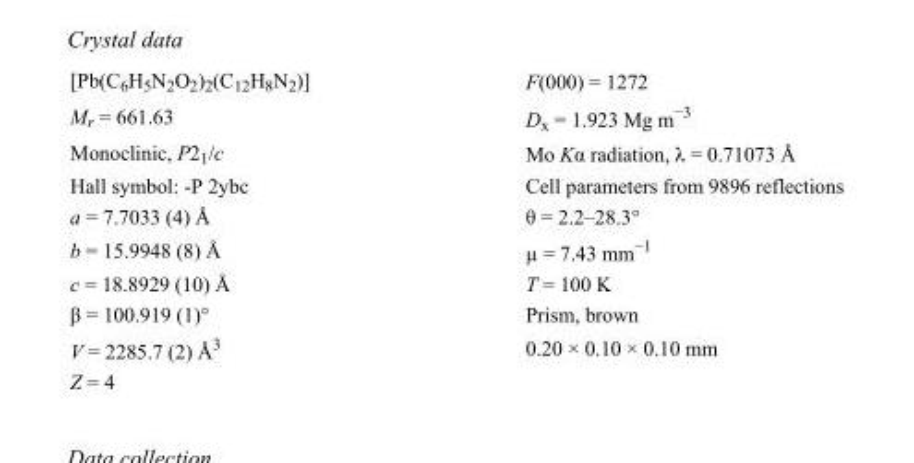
<table><tbody><tr><td>[Pb(C<sub>6</sub>H<sub>5</sub>N<sub>2</sub>O<sub>2</sub>)<sub>2</sub>(C<sub>12</sub>H<sub>8</sub>N<sub>2</sub>)]</td><td>F(000) = 1272</td></tr><tr><td>M<sub>r</sub> = 661.63</td><td>D<sub>x</sub> = 1.923 Mg m<sup>−3</sup></td></tr><tr><td>Monoclinic, P2<sub>1</sub>/c</td><td>Mo Kα radiation, λ = 0.71073 Å</td></tr><tr><td>Hall symbol: -P 2ybc</td><td>Cell parameters from 9896 reflections</td></tr><tr><td>a = 7.7033 (4) Å</td><td>θ = 2.2–28.3°</td></tr><tr><td>b = 15.9948 (8) Å</td><td>µ = 7.43 mm<sup>−1</sup></td></tr><tr><td>c = 18.8929 (10) Å</td><td>T = 100 K</td></tr><tr><td>β = 100.919 (1)°</td><td>Prism, brown</td></tr><tr><td>V = 2285.7 (2) Å<sup>3</sup></td><td>0.20 × 0.10 × 0.10 mm</td></tr><tr><td>Z = 4</td><td></td></tr></tbody></table>